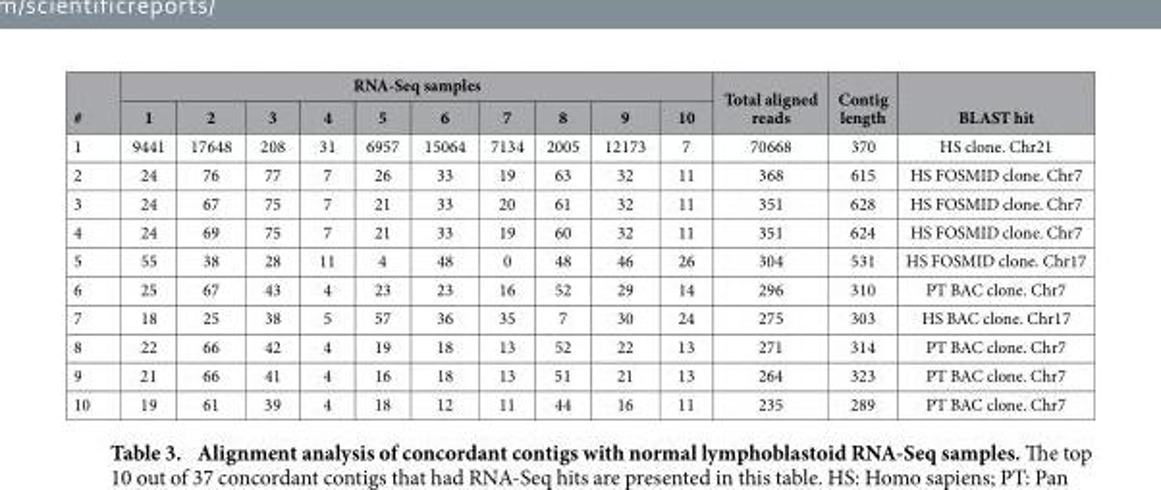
<table><thead><tr><td rowspan="2">#</td><td colspan="10">RNA-Seq samples</td><td rowspan="2">Total aligned reads</td><td rowspan="2">Contig length</td><td rowspan="2">BLAST hit</td></tr><tr><td>1</td><td>2</td><td>3</td><td>4</td><td>5</td><td>6</td><td>7</td><td>8</td><td>9</td><td>10</td></tr></thead><tbody><tr><td>1</td><td>9441</td><td>17648</td><td>208</td><td>31</td><td>6957</td><td>15064</td><td>7134</td><td>2005</td><td>12173</td><td>7</td><td>70668</td><td>370</td><td>HS clone. Chr21</td></tr><tr><td>2</td><td>24</td><td>76</td><td>77</td><td>7</td><td>26</td><td>33</td><td>19</td><td>63</td><td>32</td><td>11</td><td>368</td><td>615</td><td>HS FOSMID clone. Chr7</td></tr><tr><td>3</td><td>24</td><td>67</td><td>75</td><td>7</td><td>21</td><td>33</td><td>20</td><td>61</td><td>32</td><td>11</td><td>351</td><td>628</td><td>HS FOSMID clone. Chr7</td></tr><tr><td>4</td><td>24</td><td>69</td><td>75</td><td>7</td><td>21</td><td>33</td><td>19</td><td>60</td><td>32</td><td>11</td><td>351</td><td>624</td><td>HS FOSMID clone. Chr7</td></tr><tr><td>5</td><td>55</td><td>38</td><td>28</td><td>11</td><td>4</td><td>48</td><td>0</td><td>48</td><td>46</td><td>26</td><td>304</td><td>531</td><td>HS FOSMID clone. Chr17</td></tr><tr><td>6</td><td>25</td><td>67</td><td>43</td><td>4</td><td>23</td><td>23</td><td>16</td><td>52</td><td>29</td><td>14</td><td>296</td><td>310</td><td>PT BAC clone. Chr7</td></tr><tr><td>7</td><td>18</td><td>25</td><td>38</td><td>5</td><td>57</td><td>36</td><td>35</td><td>7</td><td>30</td><td>24</td><td>275</td><td>303</td><td>HS BAC clone. Chr17</td></tr><tr><td>8</td><td>22</td><td>66</td><td>42</td><td>4</td><td>19</td><td>18</td><td>13</td><td>52</td><td>22</td><td>13</td><td>271</td><td>314</td><td>PT BAC clone. Chr7</td></tr><tr><td>9</td><td>21</td><td>66</td><td>41</td><td>4</td><td>16</td><td>18</td><td>13</td><td>51</td><td>21</td><td>13</td><td>264</td><td>323</td><td>PT BAC clone. Chr7</td></tr><tr><td>10</td><td>19</td><td>61</td><td>39</td><td>4</td><td>18</td><td>12</td><td>11</td><td>44</td><td>16</td><td>11</td><td>235</td><td>289</td><td>PT BAC clone. Chr7</td></tr></tbody></table>